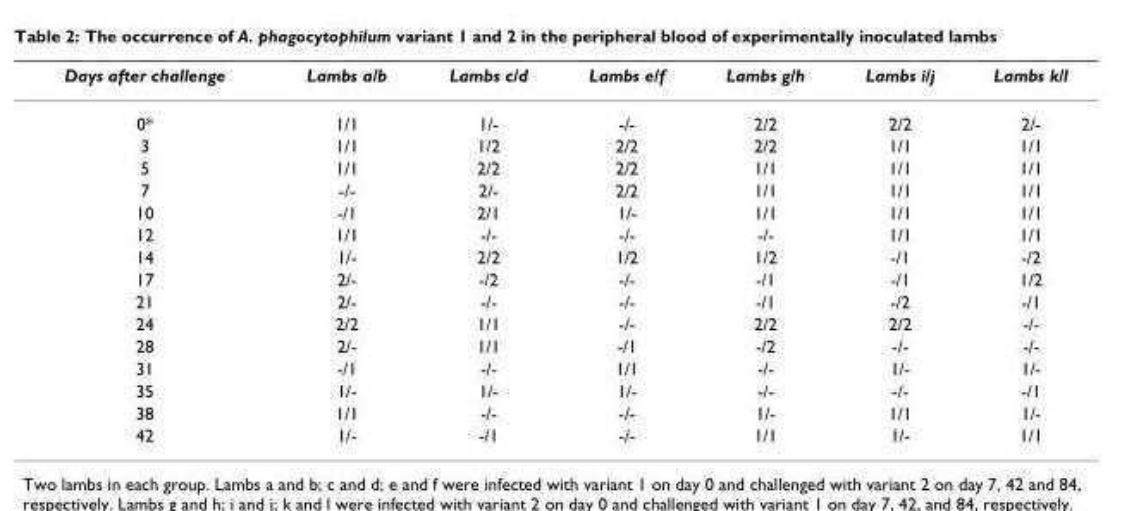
<table><thead><tr><td>Days after challenge</td><td>Lambs a/b</td><td>Lambs c/d</td><td>Lambs e/f</td><td>Lambs g/h</td><td>Lambs i/j</td><td>Lambs k/l</td></tr></thead><tbody><tr><td>0*</td><td>1/1</td><td>1/-</td><td>-/-</td><td>2/2</td><td>2/2</td><td>2/-</td></tr><tr><td>3</td><td>1/1</td><td>1/2</td><td>2/2</td><td>2/2</td><td>1/1</td><td>1/1</td></tr><tr><td>5</td><td>1/1</td><td>2/2</td><td>2/2</td><td>1/1</td><td>1/1</td><td>1/1</td></tr><tr><td>7</td><td>-/-</td><td>2/-</td><td>2/2</td><td>1/1</td><td>1/1</td><td>1/1</td></tr><tr><td>10</td><td>-/1</td><td>2/1</td><td>1/-</td><td>1/1</td><td>1/1</td><td>1/1</td></tr><tr><td>12</td><td>1/1</td><td>-/-</td><td>-/-</td><td>-/-</td><td>1/1</td><td>1/1</td></tr><tr><td>14</td><td>1/-</td><td>2/2</td><td>1/2</td><td>1/2</td><td>-/1</td><td>-/2</td></tr><tr><td>17</td><td>2/-</td><td>-/2</td><td>-/-</td><td>-/1</td><td>-/1</td><td>1/2</td></tr><tr><td>21</td><td>2/-</td><td>-/-</td><td>-/-</td><td>-/1</td><td>-/2</td><td>-/1</td></tr><tr><td>24</td><td>2/2</td><td>1/1</td><td>-/-</td><td>2/2</td><td>2/2</td><td>-/-</td></tr><tr><td>28</td><td>2/-</td><td>1/1</td><td>-/1</td><td>-/2</td><td>-/-</td><td>-/-</td></tr><tr><td>31</td><td>-/1</td><td>-/-</td><td>1/1</td><td>-/-</td><td>1/-</td><td>1/-</td></tr><tr><td>35</td><td>1/-</td><td>1/-</td><td>1/-</td><td>-/-</td><td>-/-</td><td>-/1</td></tr><tr><td>38</td><td>1/1</td><td>-/-</td><td>-/-</td><td>1/-</td><td>1/1</td><td>1/-</td></tr><tr><td>42</td><td>1/-</td><td>-/1</td><td>-/-</td><td>1/1</td><td>1/-</td><td>1/1</td></tr></tbody></table>